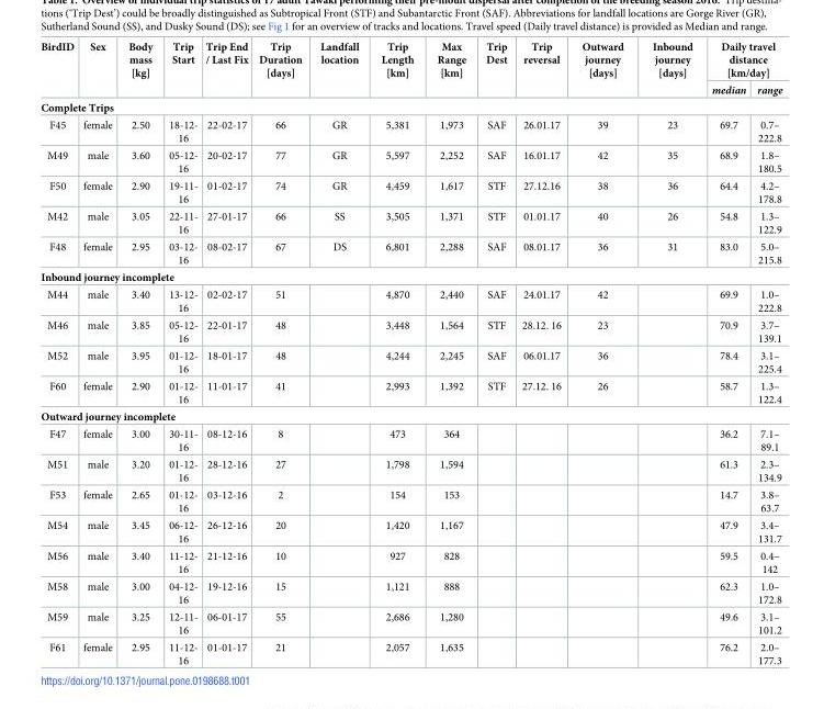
<table><thead><tr><td rowspan="2">BirdID</td><td rowspan="2">Sex</td><td rowspan="2">Body mass [kg]</td><td rowspan="2">Trip Start</td><td rowspan="2">Trip End / Last Fix</td><td rowspan="2">Trip Duration [days]</td><td rowspan="2">Landfall location</td><td rowspan="2">Trip Length [km]</td><td rowspan="2">Max Range [km]</td><td rowspan="2">Trip Dest</td><td rowspan="2">Trip reversal</td><td rowspan="2">Outward journey [days]</td><td rowspan="2">Inbound journey [days]</td><td colspan="2">Daily travel distance [km/day]</td></tr><tr><td>median</td><td>range</td></tr></thead><tbody><tr><td colspan="15">Complete Trips</td></tr><tr><td>F45</td><td>female</td><td>2.50</td><td>18-12- 16</td><td>22-02-17</td><td>66</td><td>GR</td><td>5,381</td><td>1,973</td><td>SAF</td><td>26.01.17</td><td>39</td><td>23</td><td>69.7</td><td>0.7– 222.8</td></tr><tr><td>M49</td><td>male</td><td>3.60</td><td>05-12- 16</td><td>20-02-17</td><td>77</td><td>GR</td><td>5,597</td><td>2,252</td><td>SAF</td><td>16.01.17</td><td>42</td><td>35</td><td>68.9</td><td>1.8– 180.5</td></tr><tr><td>F50</td><td>female</td><td>2.90</td><td>19-11- 16</td><td>01-02-17</td><td>74</td><td>GR</td><td>4,459</td><td>1,617</td><td>STF</td><td>27.12.16</td><td>38</td><td>36</td><td>64.4</td><td>4.2– 178.8</td></tr><tr><td>M42</td><td>male</td><td>3.05</td><td>22-11- 16</td><td>27-01-17</td><td>66</td><td>SS</td><td>3,505</td><td>1,371</td><td>STF</td><td>01.01.17</td><td>40</td><td>26</td><td>54.8</td><td>1.3– 122.9</td></tr><tr><td>F48</td><td>female</td><td>2.95</td><td>03-12- 16</td><td>08-02-17</td><td>67</td><td>DS</td><td>6,801</td><td>2,288</td><td>SAF</td><td>08.01.17</td><td>36</td><td>31</td><td>83.0</td><td>5.0– 215.8</td></tr><tr><td colspan="15">Inbound journey incomplete</td></tr><tr><td>M44</td><td>male</td><td>3.40</td><td>13-12- 16</td><td>02-02-17</td><td>51</td><td></td><td>4,870</td><td>2,440</td><td>SAF</td><td>24.01.17</td><td>42</td><td></td><td>69.9</td><td>1.0– 222.8</td></tr><tr><td>M46</td><td>male</td><td>3.85</td><td>05-12- 16</td><td>22-01-17</td><td>48</td><td></td><td>3,448</td><td>1,564</td><td>STF</td><td>28.12. 16</td><td>23</td><td></td><td>70.9</td><td>3.7– 139.1</td></tr><tr><td>M52</td><td>male</td><td>3.95</td><td>01-12- 16</td><td>18-01-17</td><td>48</td><td></td><td>4,244</td><td>2,245</td><td>SAF</td><td>06.01.17</td><td>36</td><td></td><td>78.4</td><td>3.1– 225.4</td></tr><tr><td>F60</td><td>female</td><td>2.90</td><td>01-12- 16</td><td>11-01-17</td><td>41</td><td></td><td>2,993</td><td>1,392</td><td>STF</td><td>27.12. 16</td><td>26</td><td></td><td>58.7</td><td>1.3– 122.4</td></tr><tr><td colspan="15">Outward journey incomplete</td></tr><tr><td>F47</td><td>female</td><td>3.00</td><td>30-11- 16</td><td>08-12-16</td><td>8</td><td></td><td>473</td><td>364</td><td></td><td></td><td></td><td></td><td>36.2</td><td>7.1– 89.1</td></tr><tr><td>M51</td><td>male</td><td>3.20</td><td>01-12- 16</td><td>28-12-16</td><td>27</td><td></td><td>1,798</td><td>1,594</td><td></td><td></td><td></td><td></td><td>61.3</td><td>2.3– 134.9</td></tr><tr><td>F53</td><td>female</td><td>2.65</td><td>01-12- 16</td><td>03-12-16</td><td>2</td><td></td><td>154</td><td>153</td><td></td><td></td><td></td><td></td><td>14.7</td><td>3.8– 63.7</td></tr><tr><td>M54</td><td>male</td><td>3.45</td><td>06-12- 16</td><td>26-12-16</td><td>20</td><td></td><td>1,420</td><td>1,167</td><td></td><td></td><td></td><td></td><td>47.9</td><td>3.4– 131.7</td></tr><tr><td>M56</td><td>male</td><td>3.40</td><td>11-12- 16</td><td>21-12-16</td><td>10</td><td></td><td>927</td><td>828</td><td></td><td></td><td></td><td></td><td>59.5</td><td>0.4– 142</td></tr><tr><td>M58</td><td>male</td><td>3.00</td><td>04-12- 16</td><td>19-12-16</td><td>15</td><td></td><td>1,121</td><td>888</td><td></td><td></td><td></td><td></td><td>62.3</td><td>1.0– 172.8</td></tr><tr><td>M59</td><td>male</td><td>3.25</td><td>12-11- 16</td><td>06-01-17</td><td>55</td><td></td><td>2,686</td><td>1,280</td><td></td><td></td><td></td><td></td><td>49.6</td><td>3.1– 101.2</td></tr><tr><td>F61</td><td>female</td><td>2.95</td><td>11-12- 16</td><td>01-01-17</td><td>21</td><td></td><td>2,057</td><td>1,635</td><td></td><td></td><td></td><td></td><td>76.2</td><td>2.0– 177.3</td></tr></tbody></table>